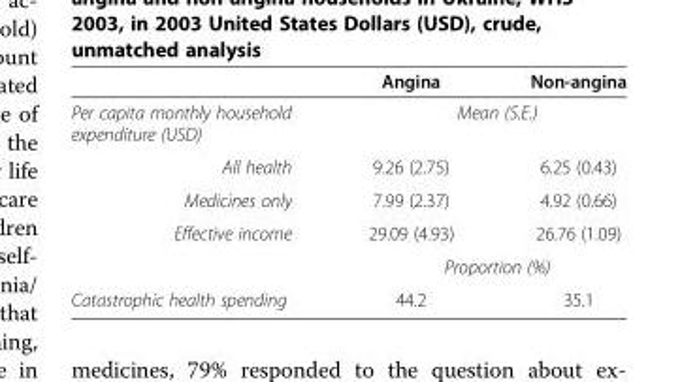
<table><thead><tr><td></td><td>Angina</td><td>Non-angina</td></tr></thead><tbody><tr><td>Per capita monthly household expenditure (USD)</td><td colspan="2">Mean (S.E.)</td></tr><tr><td>All health</td><td>9.26 (2.75)</td><td>6.25 (0.43)</td></tr><tr><td>Medicines only</td><td>7.99 (2.37)</td><td>4.92 (0.66)</td></tr><tr><td rowspan="2">Effective income</td><td>29.09 (4.93)</td><td>26.76 (1.09)</td></tr><tr><td colspan="2">Proportion (%)</td></tr><tr><td>Catastrophic health spending</td><td>44.2</td><td>35.1</td></tr></tbody></table>